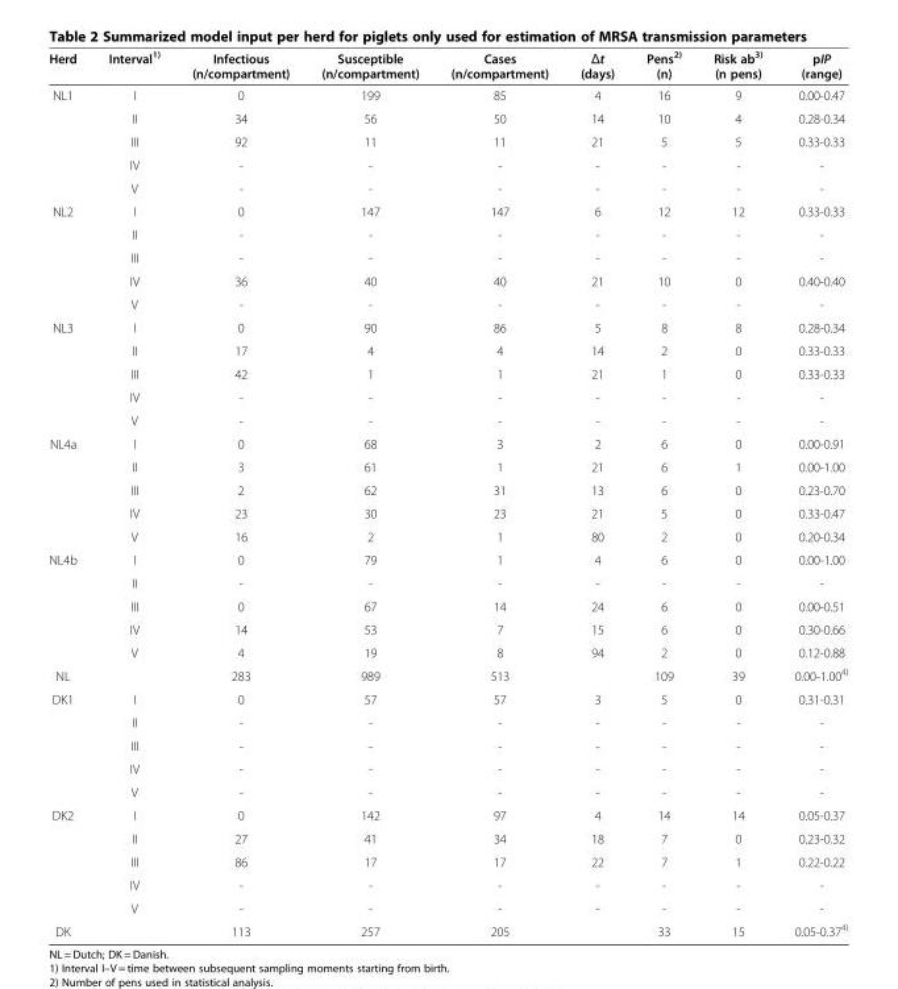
<table><thead><tr><td>Herd</td><td>Interval<sup>1)</sup></td><td>Infectious (n/compartment)</td><td>Susceptible (n/compartment)</td><td>Cases (n/compartment)</td><td>Δt (days)</td><td>Pens<sup>2)</sup> (n)</td><td>Risk ab<sup>3)</sup> (n pens)</td><td>pIP (range)</td></tr></thead><tbody><tr><td rowspan="5">NL1</td><td>I</td><td>0</td><td>199</td><td>85</td><td>4</td><td>16</td><td>9</td><td>0.00-0.47</td></tr><tr><td>II</td><td>34</td><td>56</td><td>50</td><td>14</td><td>10</td><td>4</td><td>0.28-0.34</td></tr><tr><td>III</td><td>92</td><td>11</td><td>11</td><td>21</td><td>5</td><td>5</td><td>0.33-0.33</td></tr><tr><td>IV</td><td>-</td><td>-</td><td>-</td><td>-</td><td>-</td><td>-</td><td>-</td></tr><tr><td>V</td><td>-</td><td>-</td><td>-</td><td>-</td><td>-</td><td>-</td><td>-</td></tr><tr><td rowspan="5">NL2</td><td>I</td><td>0</td><td>147</td><td>147</td><td>6</td><td>12</td><td>12</td><td>0.33-0.33</td></tr><tr><td>II</td><td>-</td><td>-</td><td>-</td><td>-</td><td>-</td><td>-</td><td>-</td></tr><tr><td>III</td><td>-</td><td>-</td><td>-</td><td>-</td><td>-</td><td>-</td><td>-</td></tr><tr><td>IV</td><td>36</td><td>40</td><td>40</td><td>21</td><td>10</td><td>0</td><td>0.40-0.40</td></tr><tr><td>V</td><td>-</td><td>-</td><td>-</td><td>-</td><td>-</td><td>-</td><td>-</td></tr><tr><td rowspan="5">NL3</td><td>I</td><td>0</td><td>90</td><td>86</td><td>5</td><td>8</td><td>8</td><td>0.28-0.34</td></tr><tr><td>II</td><td>17</td><td>4</td><td>4</td><td>14</td><td>2</td><td>0</td><td>0.33-0.33</td></tr><tr><td>III</td><td>42</td><td>1</td><td>1</td><td>21</td><td>1</td><td>0</td><td>0.33-0.33</td></tr><tr><td>IV</td><td>-</td><td>-</td><td>-</td><td>-</td><td>-</td><td>-</td><td>-</td></tr><tr><td>V</td><td>-</td><td>-</td><td>-</td><td>-</td><td>-</td><td>-</td><td>-</td></tr><tr><td rowspan="5">NL4a</td><td>I</td><td>0</td><td>68</td><td>3</td><td>2</td><td>6</td><td>0</td><td>0.00-0.91</td></tr><tr><td>II</td><td>3</td><td>61</td><td>1</td><td>21</td><td>6</td><td>1</td><td>0.00-1.00</td></tr><tr><td>III</td><td>2</td><td>62</td><td>31</td><td>13</td><td>6</td><td>0</td><td>0.23-0.70</td></tr><tr><td>IV</td><td>23</td><td>30</td><td>23</td><td>21</td><td>5</td><td>0</td><td>0.33-0.47</td></tr><tr><td>V</td><td>16</td><td>2</td><td>1</td><td>80</td><td>2</td><td>0</td><td>0.20-0.34</td></tr><tr><td rowspan="5">NL4b</td><td>I</td><td>0</td><td>79</td><td>1</td><td>4</td><td>6</td><td>0</td><td>0.00-1.00</td></tr><tr><td>II</td><td>-</td><td>-</td><td>-</td><td>-</td><td>-</td><td>-</td><td>-</td></tr><tr><td>III</td><td>0</td><td>67</td><td>14</td><td>24</td><td>6</td><td>0</td><td>0.00-0.51</td></tr><tr><td>IV</td><td>14</td><td>53</td><td>7</td><td>15</td><td>6</td><td>0</td><td>0.30-0.66</td></tr><tr><td>V</td><td>4</td><td>19</td><td>8</td><td>94</td><td>2</td><td>0</td><td>0.12-0.88</td></tr><tr><td>NL</td><td></td><td>283</td><td>989</td><td>513</td><td></td><td>109</td><td>39</td><td>0.00-1.00<sup>4)</sup></td></tr><tr><td rowspan="5">DK1</td><td>I</td><td>0</td><td>57</td><td>57</td><td>3</td><td>5</td><td>0</td><td>0.31-0.31</td></tr><tr><td>II</td><td>-</td><td>-</td><td>-</td><td>-</td><td>-</td><td>-</td><td>-</td></tr><tr><td>III</td><td>-</td><td>-</td><td>-</td><td>-</td><td>-</td><td>-</td><td>-</td></tr><tr><td>IV</td><td>-</td><td>-</td><td>-</td><td>-</td><td>-</td><td>-</td><td>-</td></tr><tr><td>V</td><td>-</td><td>-</td><td>-</td><td>-</td><td>-</td><td>-</td><td>-</td></tr><tr><td rowspan="5">DK2</td><td>I</td><td>0</td><td>142</td><td>97</td><td>4</td><td>14</td><td>14</td><td>0.05-0.37</td></tr><tr><td>II</td><td>27</td><td>41</td><td>34</td><td>18</td><td>7</td><td>0</td><td>0.23-0.32</td></tr><tr><td>III</td><td>86</td><td>17</td><td>17</td><td>22</td><td>7</td><td>1</td><td>0.22-0.22</td></tr><tr><td>IV</td><td>-</td><td>-</td><td>-</td><td>-</td><td>-</td><td>-</td><td>-</td></tr><tr><td>V</td><td>-</td><td>-</td><td>-</td><td>-</td><td>-</td><td>-</td><td>-</td></tr><tr><td>DK</td><td></td><td>113</td><td>257</td><td>205</td><td></td><td>33</td><td>15</td><td>0.05-0.37<sup>4)</sup></td></tr></tbody></table>